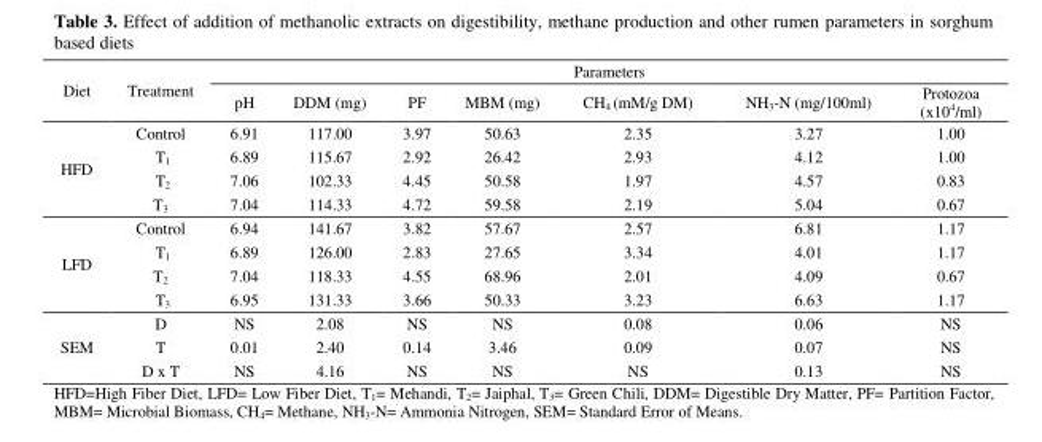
<table><thead><tr><td rowspan="2">Diet</td><td rowspan="2">Treatment</td><td colspan="7">Parameters</td></tr><tr><td>pH</td><td>DDM (mg)</td><td>PF</td><td>MBM (mg)</td><td>CH<sub>4</sub> (mM/g DM)</td><td>NH<sub>3</sub>-N (mg/100ml)</td><td>Protozoa (x10<sup>4</sup>/ml)</td></tr></thead><tbody><tr><td rowspan="4">HFD</td><td>Control</td><td>6.91</td><td>117.00</td><td>3.97</td><td>50.63</td><td>2.35</td><td>3.27</td><td>1.00</td></tr><tr><td>T<sub>1</sub></td><td>6.89</td><td>115.67</td><td>2.92</td><td>26.42</td><td>2.93</td><td>4.12</td><td>1.00</td></tr><tr><td>T<sub>2</sub></td><td>7.06</td><td>102.33</td><td>4.45</td><td>50.58</td><td>1.97</td><td>4.57</td><td>0.83</td></tr><tr><td>T<sub>3</sub></td><td>7.04</td><td>114.33</td><td>4.72</td><td>59.58</td><td>2.19</td><td>5.04</td><td>0.67</td></tr><tr><td rowspan="4">LFD</td><td>Control</td><td>6.94</td><td>141.67</td><td>3.82</td><td>57.67</td><td>2.57</td><td>6.81</td><td>1.17</td></tr><tr><td>T<sub>1</sub></td><td>6.89</td><td>126.00</td><td>2.83</td><td>27.65</td><td>3.34</td><td>4.01</td><td>1.17</td></tr><tr><td>T<sub>2</sub></td><td>7.04</td><td>118.33</td><td>4.55</td><td>68.96</td><td>2.01</td><td>4.09</td><td>0.67</td></tr><tr><td>T<sub>3</sub></td><td>6.95</td><td>131.33</td><td>3.66</td><td>50.33</td><td>3.23</td><td>6.63</td><td>1.17</td></tr><tr><td rowspan="3">SEM</td><td>D</td><td>NS</td><td>2.08</td><td>NS</td><td>NS</td><td>0.08</td><td>0.06</td><td>NS</td></tr><tr><td>T</td><td>0.01</td><td>2.40</td><td>0.14</td><td>3.46</td><td>0.09</td><td>0.07</td><td>NS</td></tr><tr><td>D x T</td><td>NS</td><td>4.16</td><td>NS</td><td>NS</td><td>NS</td><td>0.13</td><td>NS</td></tr></tbody></table>